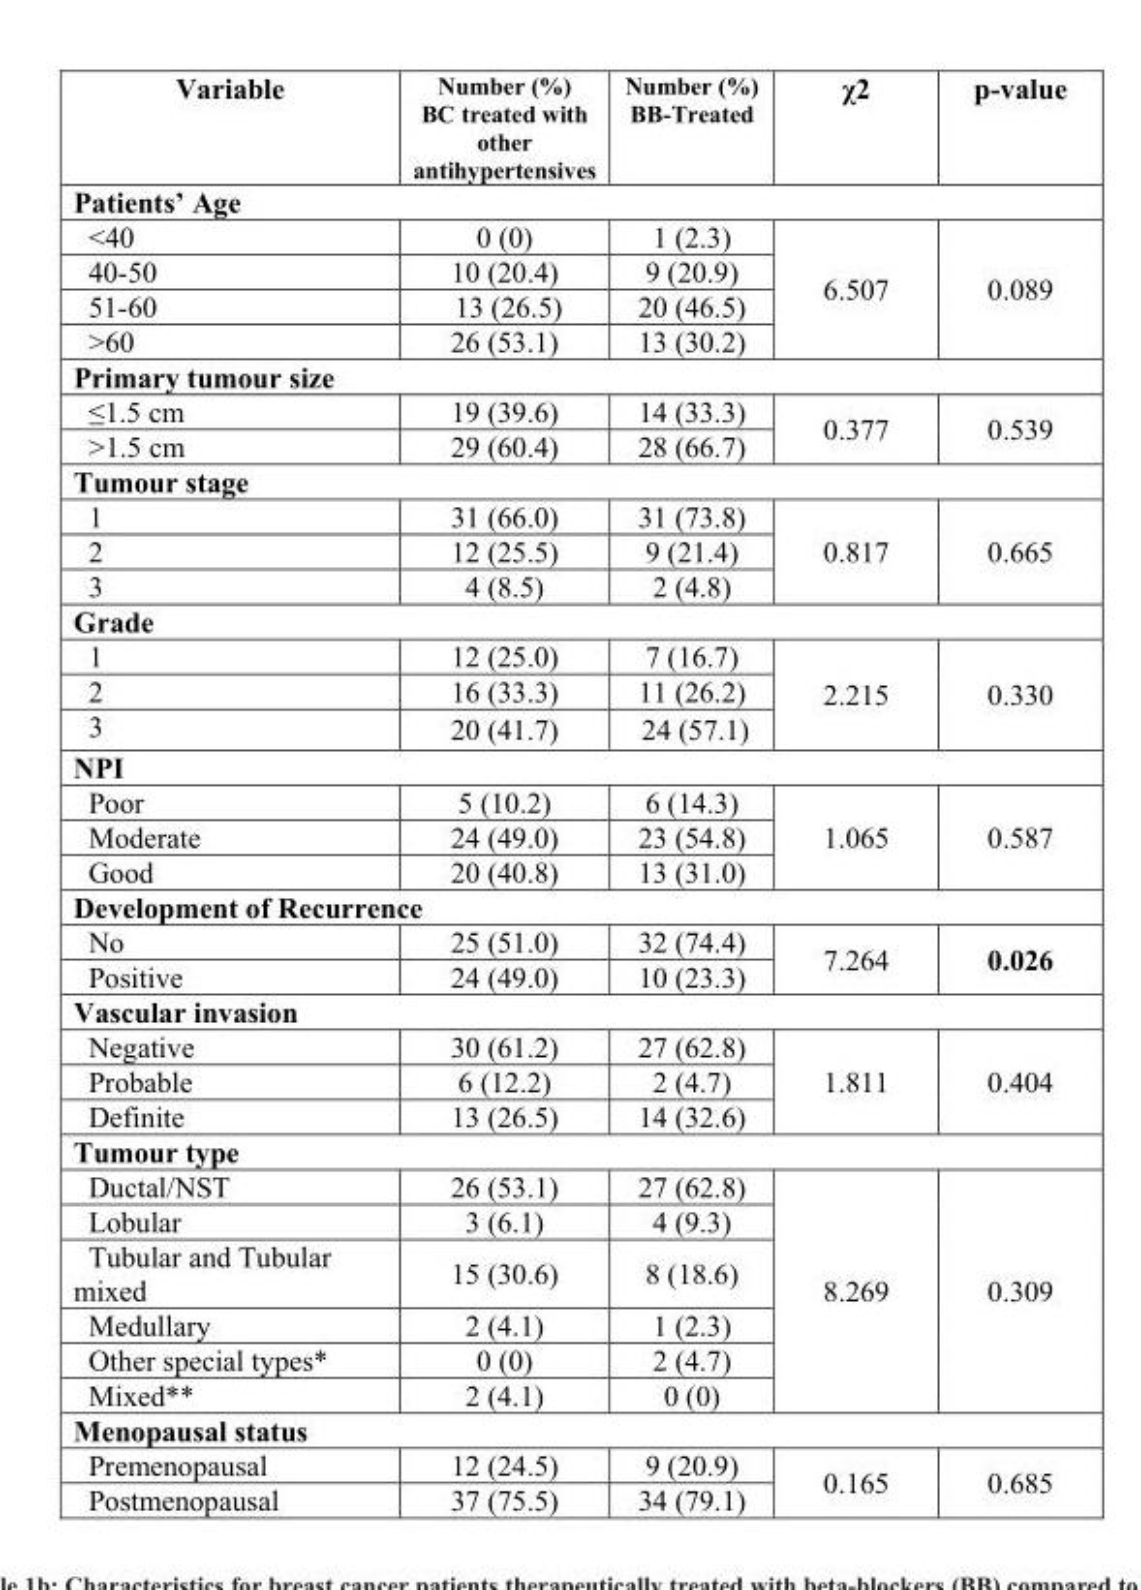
<table><thead><tr><td>Variable</td><td>Number (%) bc treated with other antihypertensives</td><td>Number (%) bb-treated</td><td>χ<sup>2</sup></td><td>p-value</td></tr></thead><tbody><tr><td colspan="5">Patients’ Age</td></tr><tr><td>&lt;40</td><td>0 (0)</td><td>1 (2.3)</td><td rowspan="4">6.507</td><td rowspan="4">0.089</td></tr><tr><td>40-50</td><td>10 (20.4)</td><td>9 (20.9)</td></tr><tr><td>51-60</td><td>13 (26.5)</td><td>20 (46.5)</td></tr><tr><td>&gt;60</td><td>26 (53.1)</td><td>13 (30.2)</td></tr><tr><td colspan="5">Primary tumour size</td></tr><tr><td>≤1.5 cm</td><td>19 (39.6)</td><td>14 (33.3)</td><td rowspan="2">0.377</td><td rowspan="2">0.539</td></tr><tr><td>&gt;1.5 cm</td><td>29 (60.4)</td><td>28 (66.7)</td></tr><tr><td colspan="5">tumour stage</td></tr><tr><td>1</td><td>31 (66.0)</td><td>31 (73.8)</td><td rowspan="3">0.817</td><td rowspan="3">0.665</td></tr><tr><td>2</td><td>12 (25.5)</td><td>9 (21.4)</td></tr><tr><td>3</td><td>4 (8.5)</td><td>2 (4.8)</td></tr><tr><td colspan="5">Grade</td></tr><tr><td>1</td><td>12 (25.0)</td><td>7 (16.7)</td><td rowspan="3">2.215</td><td rowspan="3">0.330</td></tr><tr><td>2</td><td>16 (33.3)</td><td>11 (26.2)</td></tr><tr><td>3</td><td>20 (41.7)</td><td>24 (57.1)</td></tr><tr><td colspan="5">NPI</td></tr><tr><td>Poor</td><td>5 (10.2)</td><td>6 (14.3)</td><td rowspan="3">1.065</td><td rowspan="3">0.587</td></tr><tr><td>Moderate</td><td>24 (49.0)</td><td>23 (54.8)</td></tr><tr><td>Good</td><td>20 (40.8)</td><td>13 (31.0)</td></tr><tr><td colspan="5">Development of recurrence</td></tr><tr><td>No</td><td>25 (51.0)</td><td>32 (74.4)</td><td rowspan="2">7.264</td><td rowspan="2">0.026</td></tr><tr><td>Positive</td><td>24 (49.0)</td><td>10 (23.3)</td></tr><tr><td colspan="5">Vascular invasion</td></tr><tr><td>Negative</td><td>30 (61.2)</td><td>27 (62.8)</td><td rowspan="3">1.811</td><td rowspan="3">0.404</td></tr><tr><td>Probable</td><td>6 (12.2)</td><td>2 (4.7)</td></tr><tr><td>Definite</td><td>13 (26.5)</td><td>14 (32.6)</td></tr><tr><td colspan="5">tumour type</td></tr><tr><td>Ductal/NST</td><td>26 (53.1)</td><td>27 (62.8)</td><td rowspan="6">8.269</td><td rowspan="6">0.309</td></tr><tr><td>Lobular</td><td>3 (6.1)</td><td>4 (9.3)</td></tr><tr><td>Tubular and Tubular mixed</td><td>15 (30.6)</td><td>8 (18.6)</td></tr><tr><td>Medullary</td><td>2 (4.1)</td><td>1 (2.3)</td></tr><tr><td>Other special types*</td><td>0 (0)</td><td>2 (4.7)</td></tr><tr><td>Mixed**</td><td>2 (4.1)</td><td>0 (0)</td></tr><tr><td colspan="5">menopausal status</td></tr><tr><td>Premenopausal</td><td>12 (24.5)</td><td>9 (20.9)</td><td rowspan="2">0.165</td><td rowspan="2">0.685</td></tr><tr><td>Postmenopausal</td><td>37 (75.5)</td><td>34 (79.1)</td></tr></tbody></table>